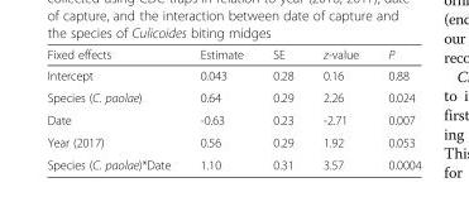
<table><thead><tr><td>Fixed effects</td><td>Estimate</td><td>SE</td><td>z-value</td><td>P</td></tr></thead><tbody><tr><td>Intercept</td><td>0.043</td><td>0.28</td><td>0.16</td><td>0.88</td></tr><tr><td>Species (C. paolae)</td><td>0.64</td><td>0.29</td><td>2.26</td><td>0.024</td></tr><tr><td>Date</td><td>-0.63</td><td>0.23</td><td>-2.71</td><td>0.007</td></tr><tr><td>Year (2017)</td><td>0.56</td><td>0.29</td><td>1.92</td><td>0.053</td></tr><tr><td>Species (C. paolae)*Date</td><td>1.10</td><td>0.31</td><td>3.57</td><td>0.0004</td></tr></tbody></table>